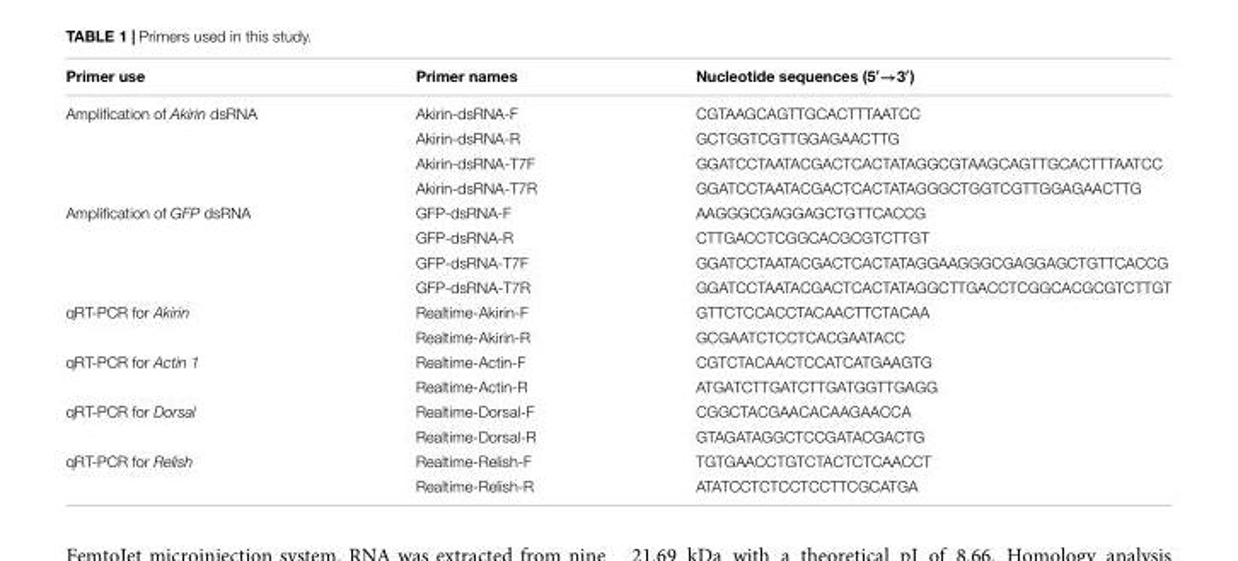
<table><thead><tr><td>Primer use</td><td>Primer names</td><td>Nucleotide sequences (5′→3′)</td></tr></thead><tbody><tr><td rowspan="4">Amplification of Akirin dsRNA</td><td>Akirin-dsRNA-F</td><td>CGTAAGCAGTTGCACTTTAATCC</td></tr><tr><td>Akirin-dsRNA-R</td><td>GCTGGTCGTTGGAGAACTTG</td></tr><tr><td>Akirin-dsRNA-T7F</td><td>GGATCCTAATACGACTCACTATAGGCGTAAGCAGTTGCACTTTAATCC</td></tr><tr><td>Akirin-dsRNA-T7R</td><td>GGATCCTAATACGACTCACTATAGGGCTGGTCGTTGGAGAACTTG</td></tr><tr><td rowspan="4">Amplification of GFP dsRNA</td><td>GFP-dsRNA-F</td><td>AAGGGCGAGGAGCTGTTCACCG</td></tr><tr><td>GFP-dsRNA-R</td><td>CTTGACCTCGGCACGCGTCTTGT</td></tr><tr><td>GFP-dsRNA-T7F</td><td>GGATCCTAATACGACTCACTATAGGAAGGGCGAGGAGCTGTTCACCG</td></tr><tr><td>GFP-dsRNA-T7R</td><td>GGATCCTAATACGACTCACTATAGGCTTGACCTCGGCACGCGTCTTGT</td></tr><tr><td rowspan="2">qRT-PCR for Akirin</td><td>Realtime-Akirin-F</td><td>GTTCTCCACCTACAACTTCTACAA</td></tr><tr><td>Realtime-Akirin-R</td><td>GCGAATCTCCTCACGAATACC</td></tr><tr><td rowspan="2">qRT-PCR for Actin 1</td><td>Realtime-Actin-F</td><td>CGTCTACAACTCCATCATGAAGTG</td></tr><tr><td>Realtime-Actin-R</td><td>ATGATCTTGATCTTGATGGTTGAGG</td></tr><tr><td rowspan="2">qRT-PCR for Dorsal</td><td>Realtime-Dorsal-F</td><td>CGGCTACGAACACAAGAACCA</td></tr><tr><td>Realtime-Dorsal-R</td><td>GTAGATAGGCTCCGATACGACTG</td></tr><tr><td rowspan="2">qRT-PCR for Relish</td><td>Realtime-Relish-F</td><td>TGTGAACCTGTCTACTCTCAACCT</td></tr><tr><td>Realtime-Relish-R</td><td>ATATCCTCTCCTCCTTCGCATGA</td></tr></tbody></table>